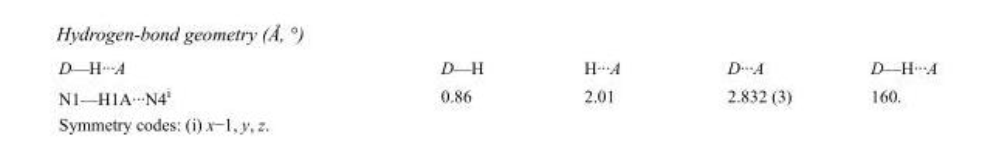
<table><tbody><tr><td>D—H···A</td><td>D—H</td><td>H···A</td><td>D···A</td><td>D—H···A</td></tr><tr><td>N1—H1A···N4<sup>i</sup></td><td>0.86</td><td>2.01</td><td>2.832 (3)</td><td>160.</td></tr></tbody></table>